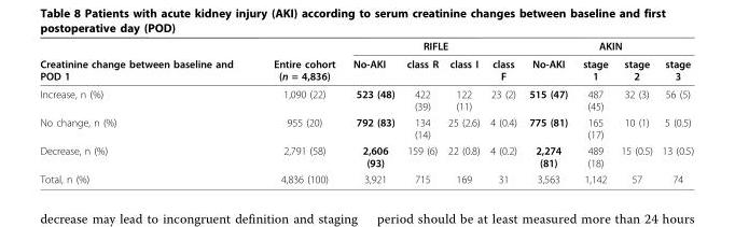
<table><thead><tr><td rowspan="2">Creatinine change between baseline and POD 1</td><td rowspan="2">Entire cohort (n = 4,836)</td><td colspan="4">RIFLE</td><td colspan="4">AKIN</td></tr><tr><td>No-AKI</td><td>class R</td><td>class I</td><td>class F</td><td>No-AKI</td><td>stage 1</td><td>stage 2</td><td>stage 3</td></tr></thead><tbody><tr><td>Increase, n (%)</td><td>1,090 (22)</td><td>523 (48)</td><td>422 (39)</td><td>122 (11)</td><td>23 (2)</td><td>515 (47)</td><td>487 (45)</td><td>32 (3)</td><td>56 (5)</td></tr><tr><td>No change, n (%)</td><td>955 (20)</td><td>792 (83)</td><td>134 (14)</td><td>25 (2.6)</td><td>4 (0.4)</td><td>775 (81)</td><td>165 (17)</td><td>10 (1)</td><td>5 (0.5)</td></tr><tr><td>Decrease, n (%)</td><td>2,791 (58)</td><td>2,606 (93)</td><td>159 (6)</td><td>22 (0.8)</td><td>4 (0.2)</td><td>2,274 (81)</td><td>489 (18)</td><td>15 (0.5)</td><td>13 (0.5)</td></tr><tr><td>Total, n (%)</td><td>4,836 (100)</td><td>3,921</td><td>715</td><td>169</td><td>31</td><td>3,563</td><td>1,142</td><td>57</td><td>74</td></tr></tbody></table>